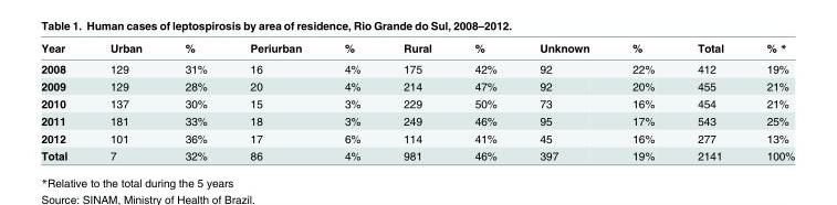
<table><thead><tr><td>Year</td><td>Urban</td><td>%</td><td>Periurban</td><td>%</td><td>Rural</td><td>%</td><td>Unknown</td><td>%</td><td>Total</td><td>% *</td></tr></thead><tbody><tr><td>2008</td><td>129</td><td>31%</td><td>16</td><td>4%</td><td>175</td><td>42%</td><td>92</td><td>22%</td><td>412</td><td>19%</td></tr><tr><td>2009</td><td>129</td><td>28%</td><td>20</td><td>4%</td><td>214</td><td>47%</td><td>92</td><td>20%</td><td>455</td><td>21%</td></tr><tr><td>2010</td><td>137</td><td>30%</td><td>15</td><td>3%</td><td>229</td><td>50%</td><td>73</td><td>16%</td><td>454</td><td>21%</td></tr><tr><td>2011</td><td>181</td><td>33%</td><td>18</td><td>3%</td><td>249</td><td>46%</td><td>95</td><td>17%</td><td>543</td><td>25%</td></tr><tr><td>2012</td><td>101</td><td>36%</td><td>17</td><td>6%</td><td>114</td><td>41%</td><td>45</td><td>16%</td><td>277</td><td>13%</td></tr><tr><td>Total</td><td>7</td><td>32%</td><td>86</td><td>4%</td><td>981</td><td>46%</td><td>397</td><td>19%</td><td>2141</td><td>100%</td></tr></tbody></table>